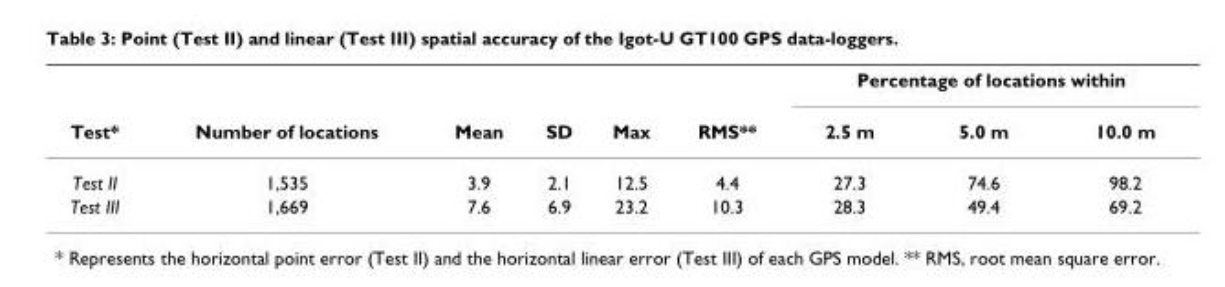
<table><thead><tr><td rowspan="2">Test*</td><td rowspan="2">Number of locations</td><td rowspan="2">Mean</td><td rowspan="2">SD</td><td rowspan="2">Max</td><td rowspan="2">RMS**</td><td colspan="3">Percentage of locations within</td></tr><tr><td>2.5 m</td><td>5.0 m</td><td>10.0 m</td></tr></thead><tbody><tr><td>Test II</td><td>1,535</td><td>3.9</td><td>2.1</td><td>12.5</td><td>4.4</td><td>27.3</td><td>74.6</td><td>98.2</td></tr><tr><td>Test III</td><td>1,669</td><td>7.6</td><td>6.9</td><td>23.2</td><td>10.3</td><td>28.3</td><td>49.4</td><td>69.2</td></tr></tbody></table>